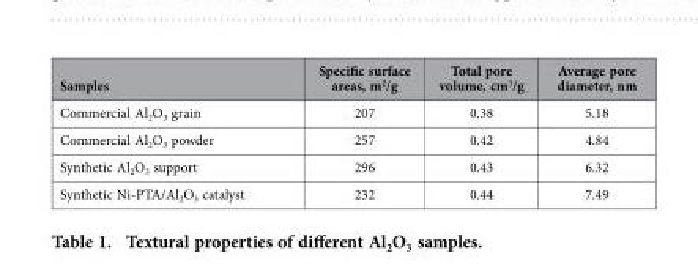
<table><thead><tr><td>Samples</td><td>Specific surface areas, m<sup>2</sup>/g</td><td>Total pore volume, cm<sup>3</sup>/g</td><td>Average pore diameter, nm</td></tr></thead><tbody><tr><td>Commercial Al<sub>2</sub>O<sub>3</sub> grain</td><td>207</td><td>0.38</td><td>5.18</td></tr><tr><td>Commercial Al<sub>2</sub>O<sub>3</sub> powder</td><td>257</td><td>0.42</td><td>4.84</td></tr><tr><td>Synthetic Al<sub>2</sub>O<sub>3</sub> support</td><td>296</td><td>0.43</td><td>6.32</td></tr><tr><td>Synthetic Ni-PTA/Al<sub>2</sub>O<sub>3</sub> catalyst</td><td>232</td><td>0.44</td><td>7.49</td></tr></tbody></table>